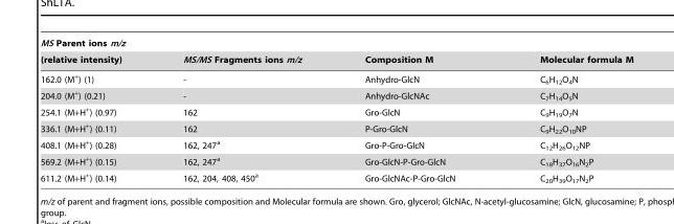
<table><thead><tr><td rowspan="2">MS Parent ions m/z (relative intensity)</td><td rowspan="2">MS/MS Fragments ions m/z</td><td rowspan="2">Composition M</td><td rowspan="2">Molecular formula M</td></tr><tr></tr></thead><tbody><tr><td>162.0 (M<sup>+</sup>) (1)</td><td>-</td><td>Anhydro-GlcN</td><td>C<sub>6</sub>H<sub>12</sub>O<sub>4</sub>N</td></tr><tr><td>204.0 (M<sup>+</sup>) (0.21)</td><td>-</td><td>Anhydro-GlcNAc</td><td>C<sub>7</sub>H<sub>14</sub>O<sub>5</sub>N</td></tr><tr><td>254.1 (M+H<sup>+</sup>) (0.97)</td><td>162</td><td>Gro-GlcN</td><td>C<sub>9</sub>H<sub>19</sub>O<sub>7</sub>N</td></tr><tr><td>336.1 (M+H<sup>+</sup>) (0.11)</td><td>162</td><td>P-Gro-GlcN</td><td>C<sub>9</sub>H<sub>22</sub>O<sub>10</sub>NP</td></tr><tr><td>408.1 (M+H<sup>+</sup>) (0.28)</td><td>162, 247<sup>a</sup></td><td>Gro-P-Gro-GlcN</td><td>C<sub>12</sub>H<sub>26</sub>O<sub>12</sub>NP</td></tr><tr><td>569.2 (M+H<sup>+</sup>) (0.15)</td><td>162, 247<sup>a</sup></td><td>Gro-GlcN-P-Gro-GlcN</td><td>C<sub>18</sub>H<sub>37</sub>O<sub>16</sub>N<sub>2</sub>P</td></tr><tr><td>611.2 (M+H<sup>+</sup>) (0.14)</td><td>162, 204, 408, 450<sup>a</sup></td><td>Gro-GlcNAc-P-Gro-GlcN</td><td>C<sub>20</sub>H<sub>39</sub>O<sub>17</sub>N<sub>2</sub>P</td></tr></tbody></table>